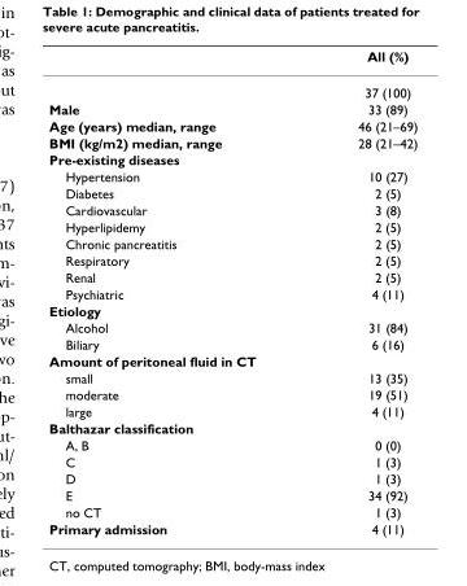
<table><thead><tr><td></td><td>All (%)</td></tr></thead><tbody><tr><td></td><td>37 (100)</td></tr><tr><td>Male</td><td>33 (89)</td></tr><tr><td>Age (years) median, range</td><td>46 (21–69)</td></tr><tr><td>BMI (kg/m2) median, range</td><td>28 (21–42)</td></tr><tr><td colspan="2">Pre-existing diseases</td></tr><tr><td>Hypertension</td><td>10 (27)</td></tr><tr><td>Diabetes</td><td>2 (5)</td></tr><tr><td>Cardiovascular</td><td>3 (8)</td></tr><tr><td>Hyperlipidemy</td><td>2 (5)</td></tr><tr><td>Chronic pancreatitis</td><td>2 (5)</td></tr><tr><td>Respiratory</td><td>2 (5)</td></tr><tr><td>Renal</td><td>2 (5)</td></tr><tr><td>Psychiatric</td><td>4 (11)</td></tr><tr><td colspan="2">Etiology</td></tr><tr><td>Alcohol</td><td>31 (84)</td></tr><tr><td>Biliary</td><td>6 (16)</td></tr><tr><td colspan="2">Amount of peritoneal fluid in CT</td></tr><tr><td>small</td><td>13 (35)</td></tr><tr><td>moderate</td><td>19 (51)</td></tr><tr><td>large</td><td>4 (11)</td></tr><tr><td colspan="2">Balthazar classification</td></tr><tr><td>A, B</td><td>0 (0)</td></tr><tr><td>C</td><td>1 (3)</td></tr><tr><td>D</td><td>1 (3)</td></tr><tr><td>E</td><td>34 (92)</td></tr><tr><td>no CT</td><td>1 (3)</td></tr><tr><td>Primary admission</td><td>4 (11)</td></tr></tbody></table>